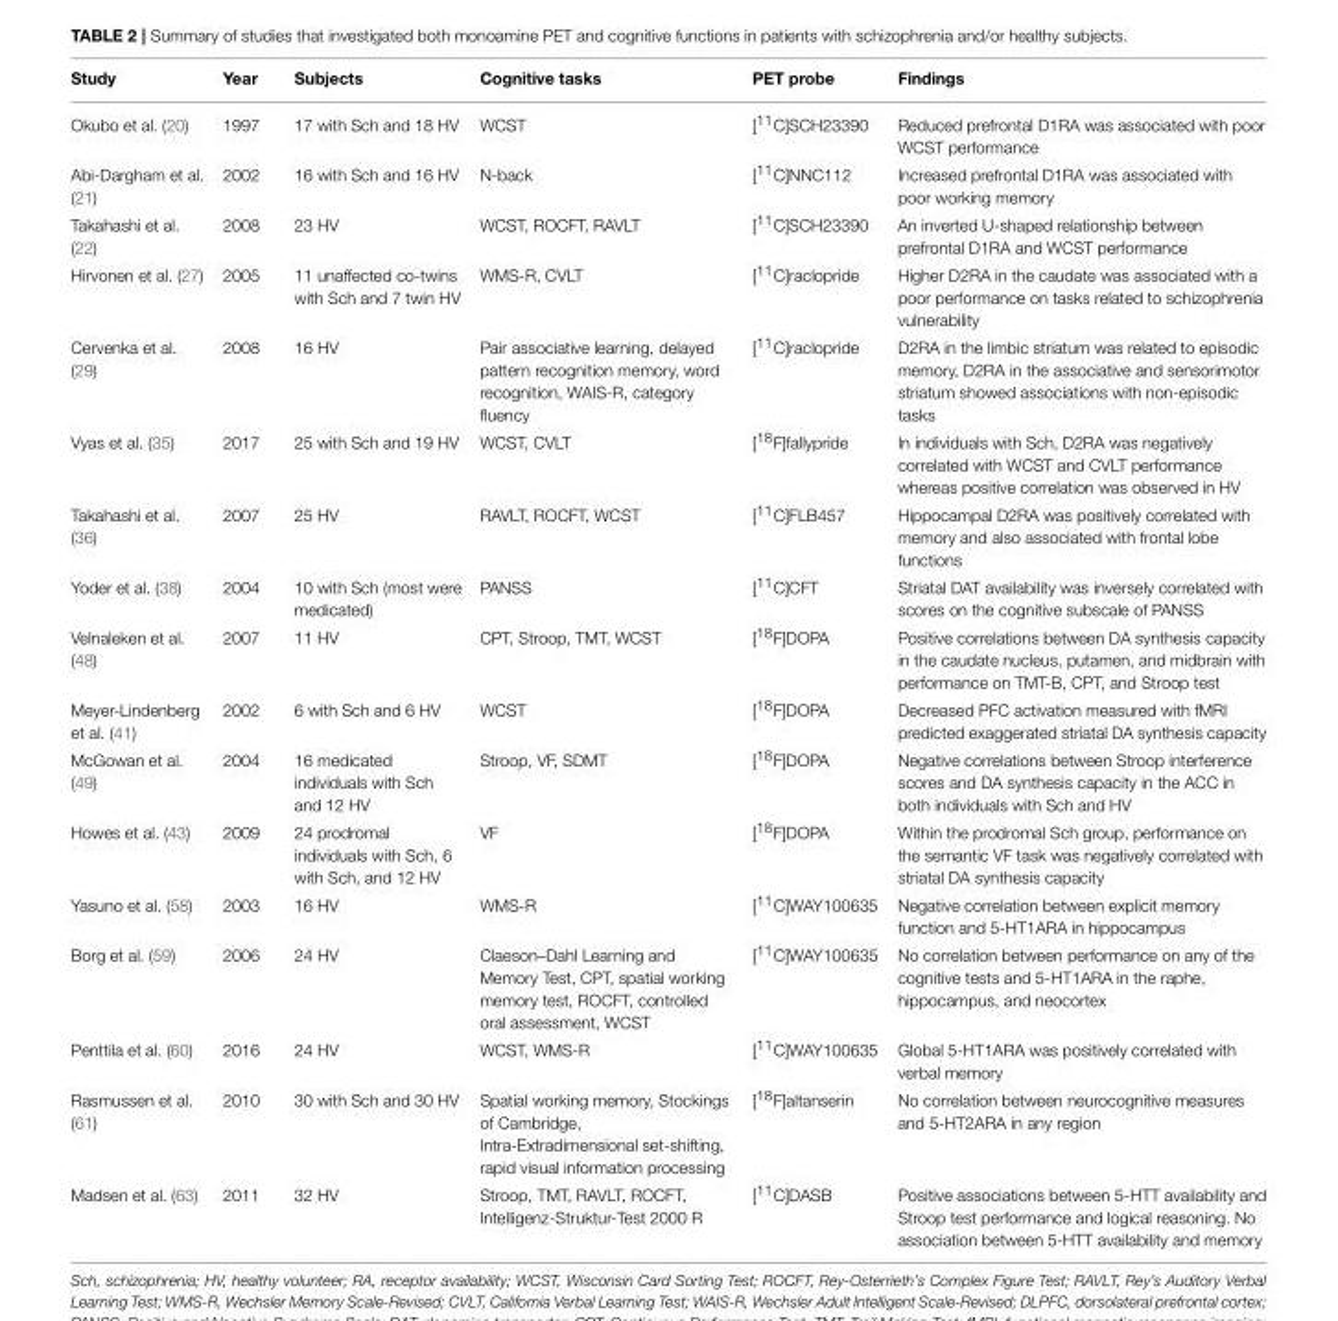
<table><thead><tr><td>Study</td><td>Year</td><td>Subjects</td><td>Cognitive tasks</td><td>PET probe</td><td>Findings</td></tr></thead><tbody><tr><td>Okubo et al. (20)</td><td>1997</td><td>17 with Sch and 18 HV</td><td>WCST</td><td>[<sup>11</sup>C]SCH23390</td><td>Reduced prefrontal D1RA was associated with poor WCST performance</td></tr><tr><td>Abi-Dargham et al. (21)</td><td>2002</td><td>16 with Sch and 16 HV</td><td>N-back</td><td>[<sup>11</sup>C]NNC112</td><td>Increased prefrontal D1RA was associated with poor working memory</td></tr><tr><td>Takahashi et al. (22)</td><td>2008</td><td>23 HV</td><td>WCST, ROCFT, RAVLT</td><td>[<sup>11</sup>C]SCH23390</td><td>An inverted U-shaped relationship between prefrontal D1RA and WCST performance</td></tr><tr><td>Hirvonen et al. (27)</td><td>2005</td><td>11 unaffected co-twins with Sch and 7 twin HV</td><td>WMS-R, CVLT</td><td>[<sup>11</sup>C]raclopride</td><td>Higher D2RA in the caudate was associated with a poor performance on tasks related to schizophrenia vulnerability</td></tr><tr><td>Cervenka et al. (29)</td><td>2008</td><td>16 HV</td><td>Pair associative learning, delayed pattern recognition memory, word recognition, WAIS-R, category fluency</td><td>[<sup>11</sup>C]raclopride</td><td>D2RA in the limbic striatum was related to episodic memory, D2RA in the associative and sensorimotor striatum showed associations with non-episodic tasks</td></tr><tr><td>Vyas et al. (35)</td><td>2017</td><td>25 with Sch and 19 HV</td><td>WCST, CVLT</td><td>[<sup>18</sup>F]fallypride</td><td>In individuals with Sch, D2RA was negatively correlated with WCST and CVLT performance whereas positive correlation was observed in HV</td></tr><tr><td>Takahashi et al. (36)</td><td>2007</td><td>25 HV</td><td>RAVLT, ROCFT, WCST</td><td>[<sup>11</sup>C]FLB457</td><td>Hippocampal D2RA was positively correlated with memory and also associated with frontal lobe functions</td></tr><tr><td>Yoder et al. (38)</td><td>2004</td><td>10 with Sch (most were medicated)</td><td>PANSS</td><td>[<sup>11</sup>C]CFT</td><td>Striatal DAT availability was inversely correlated with scores on the cognitive subscale of PANSS</td></tr><tr><td>Velnaleken et al. (48)</td><td>2007</td><td>11 HV</td><td>CPT, Stroop, TMT, WCST</td><td>[<sup>18</sup>F]DOPA</td><td>Positive correlations between DA synthesis capacity in the caudate nucleus, putamen, and midbrain with performance on TMT-B, CPT, and Stroop test</td></tr><tr><td>Meyer-Lindenberg et al. (41)</td><td>2002</td><td>6 with Sch and 6 HV</td><td>WCST</td><td>[<sup>18</sup>F]DOPA</td><td>Decreased PFC activation measured with fMRI predicted exaggerated striatal DA synthesis capacity</td></tr><tr><td>McGowan et al. (49)</td><td>2004</td><td>16 medicated individuals with Sch and 12 HV</td><td>Stroop, VF, SDMT</td><td>[<sup>18</sup>F]DOPA</td><td>Negative correlations between Stroop interference scores and DA synthesis capacity in the ACC in both individuals with Sch and HV</td></tr><tr><td>Howes et al. (43)</td><td>2009</td><td>24 prodromal individuals with Sch, 6 with Sch, and 12 HV</td><td>VF</td><td>[<sup>18</sup>F]DOPA</td><td>Within the prodromal Sch group, performance on the semantic VF task was negatively correlated with striatal DA synthesis capacity</td></tr><tr><td>Yasuno et al. (58)</td><td>2003</td><td>16 HV</td><td>WMS-R</td><td>[<sup>11</sup>C]WAY100635</td><td>Negative correlation between explicit memory function and 5-HT1ARA in hippocampus</td></tr><tr><td>Borg et al. (59)</td><td>2006</td><td>24 HV</td><td>Claeson–Dahl Learning and Memory Test, CPT, spatial working memory test, ROCFT, controlled oral assessment, WCST</td><td>[<sup>11</sup>C]WAY100635</td><td>No correlation between performance on any of the cognitive tests and 5-HT1ARA in the raphe, hippocampus, and neocortex</td></tr><tr><td>Penttila et al. (60)</td><td>2016</td><td>24 HV</td><td>WCST, WMS-R</td><td>[<sup>11</sup>C]WAY100635</td><td>Global 5-HT1ARA was positively correlated with verbal memory</td></tr><tr><td>Rasmussen et al. (61)</td><td>2010</td><td>30 with Sch and 30 HV</td><td>Spatial working memory, Stockings of Cambridge, Intra-Extradimensional set-shifting, rapid visual information processing</td><td>[<sup>18</sup>F]altanserin</td><td>No correlation between neurocognitive measures and 5-HT2ARA in any region</td></tr><tr><td>Madsen et al. (63)</td><td>2011</td><td>32 HV</td><td>Stroop, TMT, RAVLT, ROCFT, Intelligenz-Struktur-Test 2000 R</td><td>[<sup>11</sup>C]DASB</td><td>Positive associations between 5-HTT availability and Stroop test performance and logical reasoning. No association between 5-HTT availability and memory</td></tr></tbody></table>